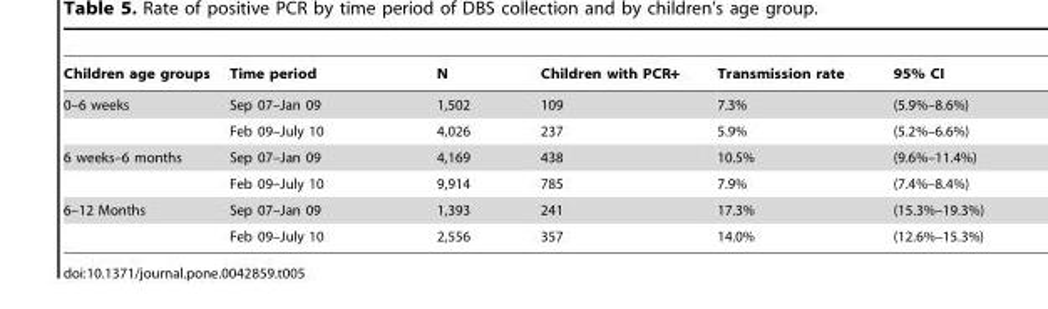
<table><thead><tr><td>Children age groups</td><td>Time period</td><td>N</td><td>Children with PCR+</td><td>Transmission rate</td><td>95% CI</td></tr></thead><tbody><tr><td rowspan="2">0–6 weeks</td><td>Sep 07–Jan 09</td><td>1,502</td><td>109</td><td>7.3%</td><td>(5.9%–8.6%)</td></tr><tr><td>Feb 09–July 10</td><td>4,026</td><td>237</td><td>5.9%</td><td>(5.2%–6.6%)</td></tr><tr><td rowspan="2">6 weeks–6 months</td><td>Sep 07–Jan 09</td><td>4,169</td><td>438</td><td>10.5%</td><td>(9.6%–11.4%)</td></tr><tr><td>Feb 09–July 10</td><td>9,914</td><td>785</td><td>7.9%</td><td>(7.4%–8.4%)</td></tr><tr><td rowspan="2">6–12 Months</td><td>Sep 07–Jan 09</td><td>1,393</td><td>241</td><td>17.3%</td><td>(15.3%–19.3%)</td></tr><tr><td>Feb 09–July 10</td><td>2,556</td><td>357</td><td>14.0%</td><td>(12.6%–15.3%)</td></tr></tbody></table>